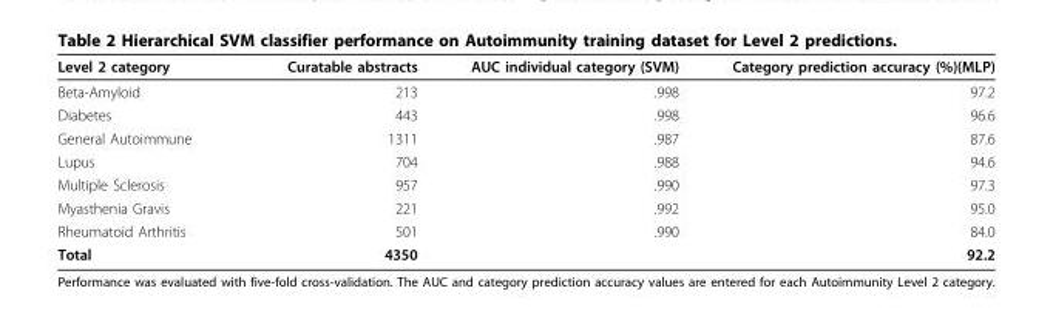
<table><thead><tr><td>Level 2 category</td><td>Curatable abstracts</td><td>AUC individual category (SVM)</td><td>Category prediction accuracy (%)(MLP)</td></tr></thead><tbody><tr><td>Beta-Amyloid</td><td>213</td><td>.998</td><td>97.2</td></tr><tr><td>Diabetes</td><td>443</td><td>.998</td><td>96.6</td></tr><tr><td>General Autoimmune</td><td>1311</td><td>.987</td><td>87.6</td></tr><tr><td>Lupus</td><td>704</td><td>.988</td><td>94.6</td></tr><tr><td>Multiple Sclerosis</td><td>957</td><td>.990</td><td>97.3</td></tr><tr><td>Myasthenia Gravis</td><td>221</td><td>.992</td><td>95.0</td></tr><tr><td>Rheumatoid Arthritis</td><td>501</td><td>.990</td><td>84.0</td></tr><tr><td>Total</td><td>4350</td><td></td><td>92.2</td></tr></tbody></table>